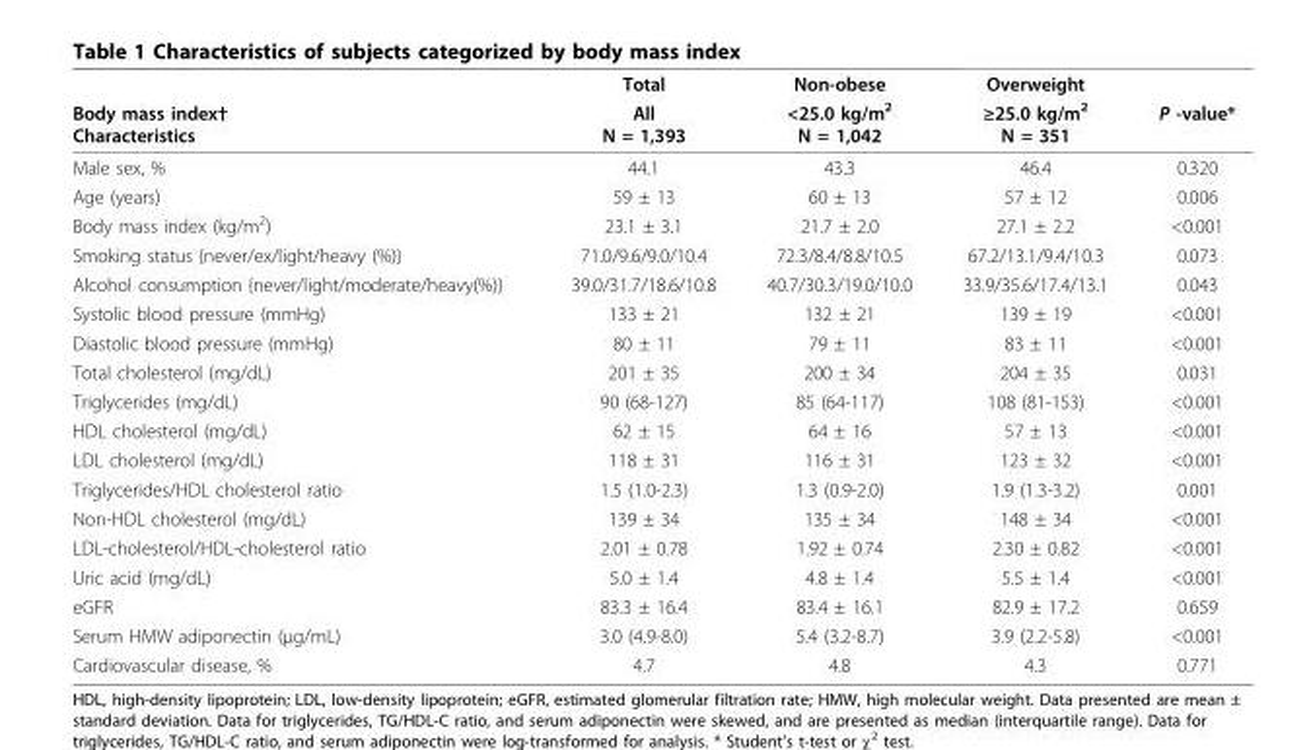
<table><thead><tr><td rowspan="2">Body mass index† Characteristics</td><td rowspan="2">Total All N = 1,393</td><td rowspan="2">Non-obese &lt;25.0 kg/m<sup>2</sup> N = 1,042</td><td rowspan="2">Overweight ≥25.0 kg/m<sup>2</sup> N = 351</td><td rowspan="2">P -value*</td></tr><tr></tr></thead><tbody><tr><td>Male sex, %</td><td>44.1</td><td>43.3</td><td>46.4</td><td>0.320</td></tr><tr><td>Age (years)</td><td>59 ± 13</td><td>60 ± 13</td><td>57 ± 12</td><td>0.006</td></tr><tr><td>Body mass index (kg/m<sup>2</sup>)</td><td>23.1 ± 3.1</td><td>21.7 ± 2.0</td><td>27.1 ± 2.2</td><td>&lt;0.001</td></tr><tr><td>Smoking status {never/ex/light/heavy (%)}</td><td>71.0/9.6/9.0/10.4</td><td>72.3/8.4/8.8/10.5</td><td>67.2/13.1/9.4/10.3</td><td>0.073</td></tr><tr><td>Alcohol consumption {never/light/moderate/heavy(%)}</td><td>39.0/31.7/18.6/10.8</td><td>40.7/30.3/19.0/10.0</td><td>33.9/35.6/17.4/13.1</td><td>0.043</td></tr><tr><td>Systolic blood pressure (mmHg)</td><td>133 ± 21</td><td>132 ± 21</td><td>139 ± 19</td><td>&lt;0.001</td></tr><tr><td>Diastolic blood pressure (mmHg)</td><td>80 ± 11</td><td>79 ± 11</td><td>83 ± 11</td><td>&lt;0.001</td></tr><tr><td>Total cholesterol (mg/dL)</td><td>201 ± 35</td><td>200 ± 34</td><td>204 ± 35</td><td>0.031</td></tr><tr><td>Triglycerides (mg/dL)</td><td>90 (68-127)</td><td>85 (64-117)</td><td>108 (81-153)</td><td>&lt;0.001</td></tr><tr><td>HDL cholesterol (mg/dL)</td><td>62 ± 15</td><td>64 ± 16</td><td>57 ± 13</td><td>&lt;0.001</td></tr><tr><td>LDL cholesterol (mg/dL)</td><td>118 ± 31</td><td>116 ± 31</td><td>123 ± 32</td><td>&lt;0.001</td></tr><tr><td>Triglycerides/HDL cholesterol ratio</td><td>1.5 (1.0-2.3)</td><td>1.3 (0.9-2.0)</td><td>1.9 (1.3-3.2)</td><td>0.001</td></tr><tr><td>Non-HDL cholesterol (mg/dL)</td><td>139 ± 34</td><td>135 ± 34</td><td>148 ± 34</td><td>&lt;0.001</td></tr><tr><td>LDL-cholesterol/HDL-cholesterol ratio</td><td>2.01 ± 0.78</td><td>1.92 ± 0.74</td><td>2.30 ± 0.82</td><td>&lt;0.001</td></tr><tr><td>Uric acid (mg/dL)</td><td>5.0 ± 1.4</td><td>4.8 ± 1.4</td><td>5.5 ± 1.4</td><td>&lt;0.001</td></tr><tr><td>eGFR</td><td>83.3 ± 16.4</td><td>83.4 ± 16.1</td><td>82.9 ± 17.2</td><td>0.659</td></tr><tr><td>Serum HMW adiponectin (μg/mL)</td><td>3.0 (4.9-8.0)</td><td>5.4 (3.2-8.7)</td><td>3.9 (2.2-5.8)</td><td>&lt;0.001</td></tr><tr><td>Cardiovascular disease, %</td><td>4.7</td><td>4.8</td><td>4.3</td><td>0.771</td></tr></tbody></table>